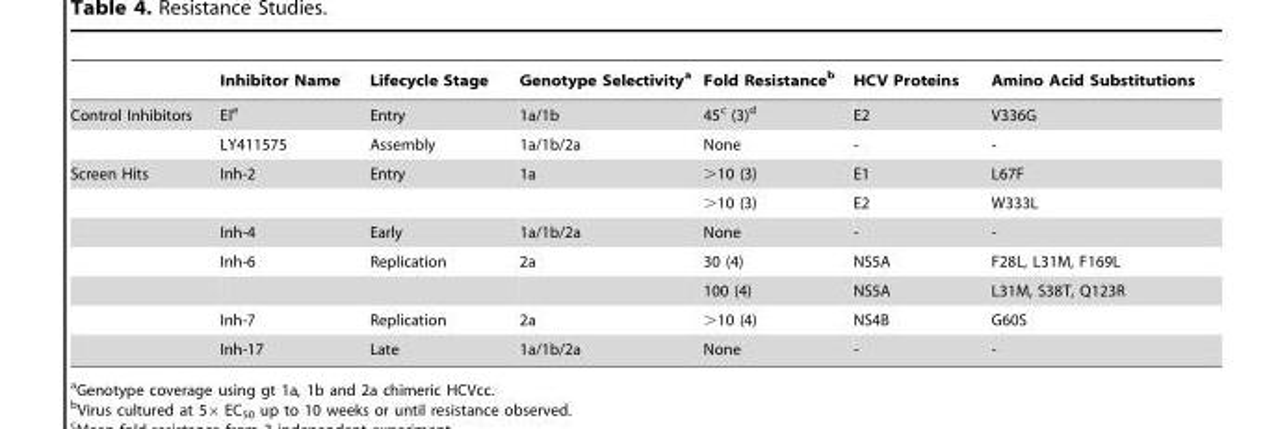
<table><thead><tr><td></td><td>Inhibitor Name</td><td>Lifecycle Stage</td><td>Genotype Selectivity<sup>a</sup></td><td>Fold Resistance<sup>b</sup></td><td>HCV Proteins</td><td>Amino Acid Substitutions</td></tr></thead><tbody><tr><td rowspan="2">Control Inhibitors</td><td>EI<sup>e</sup></td><td>Entry</td><td>1a/1b</td><td>45<sup>c</sup> (3)<sup>d</sup></td><td>E2</td><td>V336G</td></tr><tr><td>LY411575</td><td>Assembly</td><td>1a/1b/2a</td><td>None</td><td>-</td><td>-</td></tr><tr><td rowspan="7">Screen Hits</td><td>Inh-2</td><td>Entry</td><td>1a</td><td>&gt;10 (3)</td><td>E1</td><td>L67F</td></tr><tr><td></td><td></td><td></td><td>&gt;10 (3)</td><td>E2</td><td>W333L</td></tr><tr><td>Inh-4</td><td>Early</td><td>1a/1b/2a</td><td>None</td><td>-</td><td>-</td></tr><tr><td>Inh-6</td><td>Replication</td><td>2a</td><td>30 (4)</td><td>NS5A</td><td>F28L, L31M, F169L</td></tr><tr><td></td><td></td><td></td><td>100 (4)</td><td>NS5A</td><td>L31M, S38T, Q123R</td></tr><tr><td>Inh-7</td><td>Replication</td><td>2a</td><td>&gt;10 (4)</td><td>NS4B</td><td>G60S</td></tr><tr><td>Inh-17</td><td>Late</td><td>1a/1b/2a</td><td>None</td><td>-</td><td>-</td></tr></tbody></table>